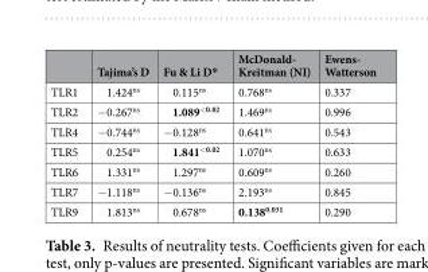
<table><thead><tr><td></td><td>Tajima’s D</td><td>Fu &amp; Li D*</td><td>McDonald- Kreitman (NI)</td><td>Ewens- Watterson</td></tr></thead><tbody><tr><td>TLR1</td><td>1.424<sup>ns</sup></td><td>0.115<sup>ns</sup></td><td>0.768<sup>ns</sup></td><td>0.337</td></tr><tr><td>TLR2</td><td>−0.267<sup>ns</sup></td><td>1.089<sup>&lt;0.02</sup></td><td>1.469<sup>ns</sup></td><td>0.996</td></tr><tr><td>TLR4</td><td>−0.744<sup>ns</sup></td><td>−0.128<sup>ns</sup></td><td>0.641<sup>ns</sup></td><td>0.543</td></tr><tr><td>TLR5</td><td>0.254<sup>ns</sup></td><td>1.841<sup>&lt;0.02</sup></td><td>1.070<sup>ns</sup></td><td>0.633</td></tr><tr><td>TLR6</td><td>1.331<sup>ns</sup></td><td>1.297<sup>ns</sup></td><td>0.609<sup>ns</sup></td><td>0.260</td></tr><tr><td>TLR7</td><td>−1.118<sup>ns</sup></td><td>−0.136<sup>ns</sup></td><td>2.193<sup>ns</sup></td><td>0.845</td></tr><tr><td>TLR9</td><td>1.813<sup>ns</sup></td><td>0.678<sup>ns</sup></td><td>0.138<sup>0.031</sup></td><td>0.290</td></tr></tbody></table>